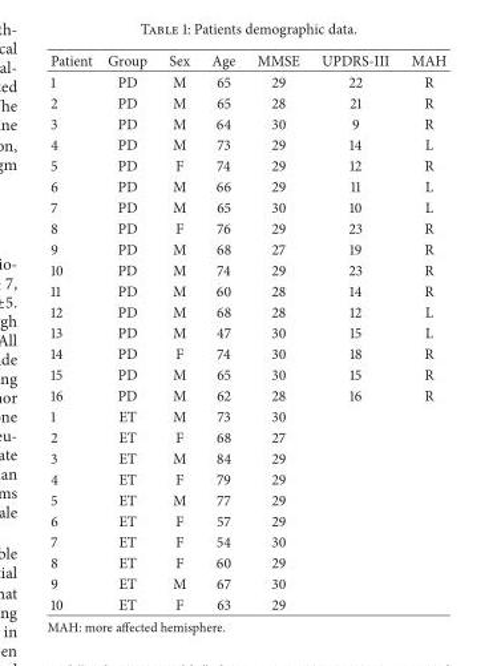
<table><thead><tr><td>Patient</td><td>Group</td><td>Sex</td><td>Age</td><td>MMSE</td><td>UPDRS-III</td><td>MAH</td></tr></thead><tbody><tr><td>1</td><td>PD</td><td>M</td><td>65</td><td>29</td><td>22</td><td>R</td></tr><tr><td>2</td><td>PD</td><td>M</td><td>65</td><td>28</td><td>21</td><td>R</td></tr><tr><td>3</td><td>PD</td><td>M</td><td>64</td><td>30</td><td>9</td><td>R</td></tr><tr><td>4</td><td>PD</td><td>M</td><td>73</td><td>29</td><td>14</td><td>L</td></tr><tr><td>5</td><td>PD</td><td>F</td><td>74</td><td>29</td><td>12</td><td>R</td></tr><tr><td>6</td><td>PD</td><td>M</td><td>66</td><td>29</td><td>11</td><td>L</td></tr><tr><td>7</td><td>PD</td><td>M</td><td>65</td><td>30</td><td>10</td><td>L</td></tr><tr><td>8</td><td>PD</td><td>F</td><td>76</td><td>29</td><td>23</td><td>R</td></tr><tr><td>9</td><td>PD</td><td>M</td><td>68</td><td>27</td><td>19</td><td>R</td></tr><tr><td>10</td><td>PD</td><td>M</td><td>74</td><td>29</td><td>23</td><td>R</td></tr><tr><td>11</td><td>PD</td><td>M</td><td>60</td><td>28</td><td>14</td><td>R</td></tr><tr><td>12</td><td>PD</td><td>M</td><td>68</td><td>28</td><td>12</td><td>L</td></tr><tr><td>13</td><td>PD</td><td>M</td><td>47</td><td>30</td><td>15</td><td>L</td></tr><tr><td>14</td><td>PD</td><td>F</td><td>74</td><td>30</td><td>18</td><td>R</td></tr><tr><td>15</td><td>PD</td><td>M</td><td>65</td><td>30</td><td>15</td><td>R</td></tr><tr><td>16</td><td>PD</td><td>M</td><td>62</td><td>28</td><td>16</td><td>R</td></tr><tr><td>1</td><td>ET</td><td>M</td><td>73</td><td>30</td><td></td><td></td></tr><tr><td>2</td><td>ET</td><td>F</td><td>68</td><td>27</td><td></td><td></td></tr><tr><td>3</td><td>ET</td><td>M</td><td>84</td><td>29</td><td></td><td></td></tr><tr><td>4</td><td>ET</td><td>F</td><td>79</td><td>29</td><td></td><td></td></tr><tr><td>5</td><td>ET</td><td>M</td><td>77</td><td>29</td><td></td><td></td></tr><tr><td>6</td><td>ET</td><td>F</td><td>57</td><td>29</td><td></td><td></td></tr><tr><td>7</td><td>ET</td><td>F</td><td>54</td><td>30</td><td></td><td></td></tr><tr><td>8</td><td>ET</td><td>F</td><td>60</td><td>29</td><td></td><td></td></tr><tr><td>9</td><td>ET</td><td>M</td><td>67</td><td>30</td><td></td><td></td></tr><tr><td>10</td><td>ET</td><td>F</td><td>63</td><td>29</td><td></td><td></td></tr></tbody></table>